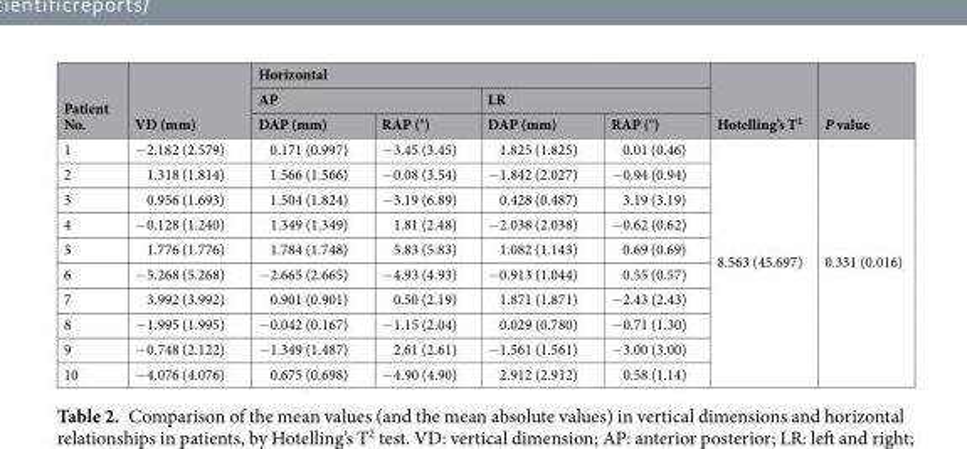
<table><thead><tr><td rowspan="3">Patient No.</td><td rowspan="3">VD (mm)</td><td colspan="4">Horizontal</td><td rowspan="3">Hotelling’s T<sup>2</sup></td><td rowspan="3">P value</td></tr><tr><td colspan="2">AP</td><td colspan="2">LR</td></tr><tr><td>DAP (mm)</td><td>RAP (°)</td><td>DAP (mm)</td><td>RAP (°)</td></tr></thead><tbody><tr><td>1</td><td>−2.182 (2.579)</td><td>0.171 (0.997)</td><td>−3.45 (3.45)</td><td>1.825 (1.825)</td><td>0.01 (0.46)</td><td rowspan="10">8.563 (45.697)</td><td rowspan="10">0.331 (0.016)</td></tr><tr><td>2</td><td>1.318 (1.814)</td><td>1.566 (1.566)</td><td>−0.08 (3.54)</td><td>−1.842 (2.027)</td><td>−0.94 (0.94)</td></tr><tr><td>3</td><td>0.956 (1.693)</td><td>1.504 (1.824)</td><td>−3.19 (6.89)</td><td>0.428 (0.487)</td><td>3.19 (3.19)</td></tr><tr><td>4</td><td>−0.128 (1.240)</td><td>1.349 (1.349)</td><td>1.81 (2.48)</td><td>−2.038 (2.038)</td><td>−0.62 (0.62)</td></tr><tr><td>5</td><td>1.776 (1.776)</td><td>1.784 (1.748)</td><td>5.83 (5.83)</td><td>1.082 (1.143)</td><td>0.69 (0.69)</td></tr><tr><td>6</td><td>−5.268 (5.268)</td><td>−2.665 (2.665)</td><td>−4.93 (4.93)</td><td>−0.913 (1.044)</td><td>0.55 (0.57)</td></tr><tr><td>7</td><td>3.992 (3.992)</td><td>0.901 (0.901)</td><td>0.50 (2.19)</td><td>1.871 (1.871)</td><td>−2.43 (2.43)</td></tr><tr><td>8</td><td>−1.995 (1.995)</td><td>−0.042 (0.167)</td><td>−1.15 (2.04)</td><td>0.029 (0.780)</td><td>−0.71 (1.30)</td></tr><tr><td>9</td><td>−0.748 (2.122)</td><td>−1.349 (1.487)</td><td>2.61 (2.61)</td><td>−1.561 (1.561)</td><td>−3.00 (3.00)</td></tr><tr><td>10</td><td>−4.076 (4.076)</td><td>0.675 (0.698)</td><td>−4.90 (4.90)</td><td>2.912 (2.912)</td><td>0.58 (1.14)</td></tr></tbody></table>